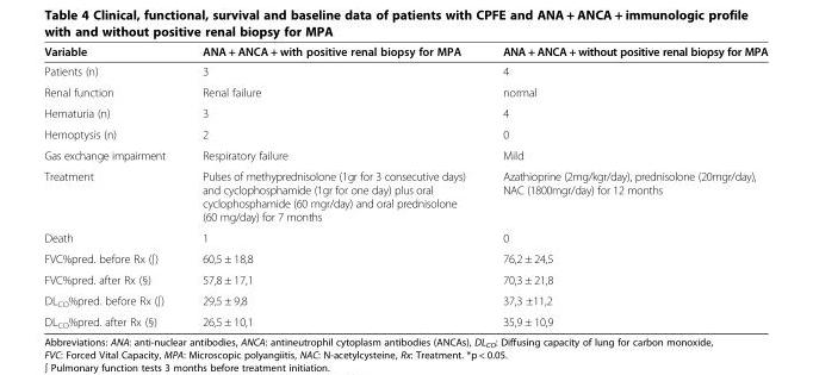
<table><thead><tr><td>Variable</td><td>ANA + ANCA + with positive renal biopsy for MPA</td><td>ANA + ANCA + without positive renal biopsy for MPA</td></tr></thead><tbody><tr><td>Patients (n)</td><td>3</td><td>4</td></tr><tr><td>Renal function</td><td>Renal failure</td><td>normal</td></tr><tr><td>Hematuria (n)</td><td>3</td><td>4</td></tr><tr><td>Hemoptysis (n)</td><td>2</td><td>0</td></tr><tr><td>Gas exchange impairment</td><td>Respiratory failure</td><td>Mild</td></tr><tr><td>Treatment</td><td>Pulses of methyprednisolone (1gr for 3 consecutive days) and cyclophosphamide (1gr for one day) plus oral cyclophosphamide (60 mgr/day) and oral prednisolone (60 mg/day) for 7 months</td><td>Azathioprine (2mg/kgr/day), prednisolone (20mgr/day), NAC (1800mgr/day) for 12 months</td></tr><tr><td>Death</td><td>1</td><td>0</td></tr><tr><td>FVC%pred. before Rx (∫)</td><td>60,5 ± 18,8</td><td>76,2 ± 24,5</td></tr><tr><td>FVC%pred. after Rx (§)</td><td>57,8 ± 17,1</td><td>70,3 ± 21,8</td></tr><tr><td>DL<sub>CO</sub>%pred. before Rx (∫)</td><td>29,5 ± 9,8</td><td>37,3 ±11,2</td></tr><tr><td>DL<sub>CO</sub>%pred. after Rx (§)</td><td>26,5 ± 10,1</td><td>35,9 ± 10,9</td></tr></tbody></table>